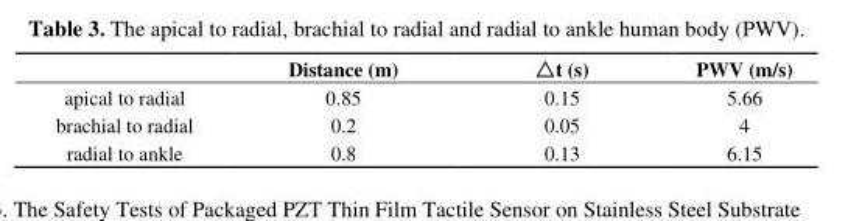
<table><thead><tr><td></td><td>Distance (m)</td><td>△t (s)</td><td>PWV (m/s)</td></tr></thead><tbody><tr><td>apical to radial</td><td>0.85</td><td>0.15</td><td>5.66</td></tr><tr><td>brachial to radial</td><td>0.2</td><td>0.05</td><td>4</td></tr><tr><td>radial to ankle</td><td>0.8</td><td>0.13</td><td>6.15</td></tr></tbody></table>